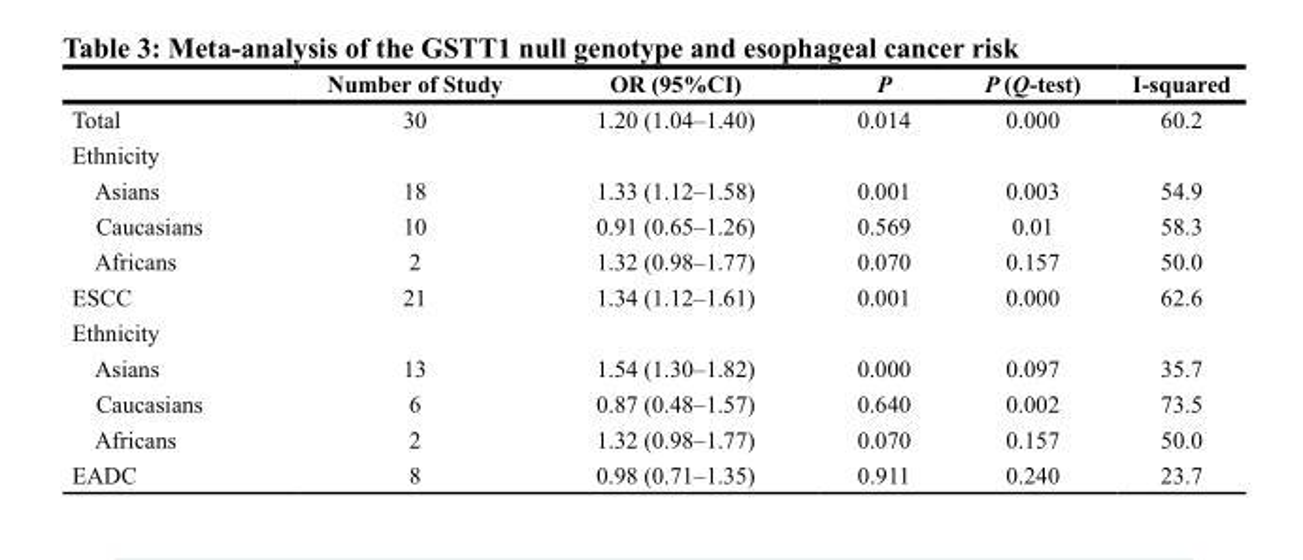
<table><thead><tr><td></td><td>Number of Study</td><td>OR (95%CI)</td><td>P</td><td>P (Q-test)</td><td>I-squared</td></tr></thead><tbody><tr><td>Total</td><td>30</td><td>1.20 (1.04–1.40)</td><td>0.014</td><td>0.000</td><td>60.2</td></tr><tr><td colspan="6">Ethnicity</td></tr><tr><td>Asians</td><td>18</td><td>1.33 (1.12–1.58)</td><td>0.001</td><td>0.003</td><td>54.9</td></tr><tr><td>Caucasians</td><td>10</td><td>0.91 (0.65–1.26)</td><td>0.569</td><td>0.01</td><td>58.3</td></tr><tr><td>Africans</td><td>2</td><td>1.32 (0.98–1.77)</td><td>0.070</td><td>0.157</td><td>50.0</td></tr><tr><td>ESCC</td><td>21</td><td>1.34 (1.12–1.61)</td><td>0.001</td><td>0.000</td><td>62.6</td></tr><tr><td colspan="6">Ethnicity</td></tr><tr><td>Asians</td><td>13</td><td>1.54 (1.30–1.82)</td><td>0.000</td><td>0.097</td><td>35.7</td></tr><tr><td>Caucasians</td><td>6</td><td>0.87 (0.48–1.57)</td><td>0.640</td><td>0.002</td><td>73.5</td></tr><tr><td>Africans</td><td>2</td><td>1.32 (0.98–1.77)</td><td>0.070</td><td>0.157</td><td>50.0</td></tr><tr><td>EADC</td><td>8</td><td>0.98 (0.71–1.35)</td><td>0.911</td><td>0.240</td><td>23.7</td></tr></tbody></table>